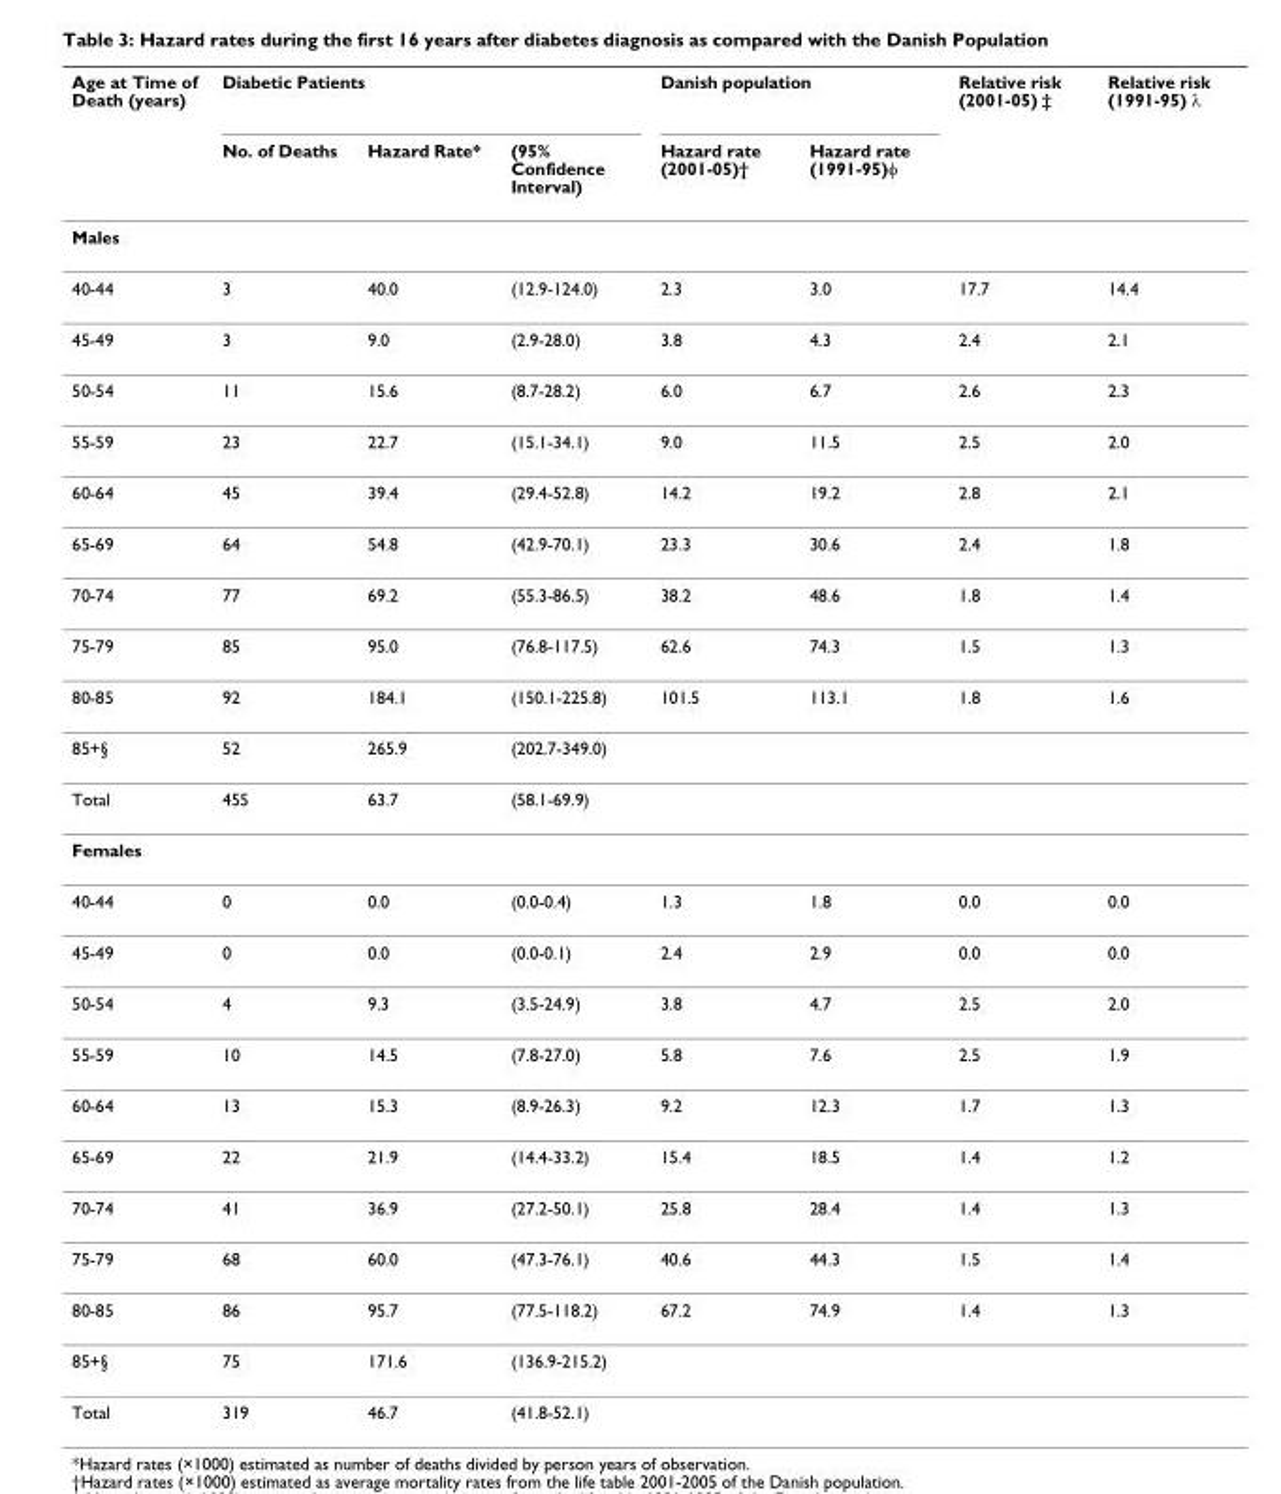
<table><thead><tr><td rowspan="2">Age at Time of Death (years)</td><td colspan="3">Diabetic Patients</td><td colspan="2">Danish population</td><td rowspan="2">Relative risk (2001-05) ‡</td><td rowspan="2">Relative risk (1991-95) λ</td></tr><tr><td>No. of Deaths</td><td>Hazard Rate*</td><td>(95% Confidence Interval)</td><td>Hazard rate (2001-05)†</td><td>Hazard rate (1991-95)φ</td></tr></thead><tbody><tr><td colspan="8">Males</td></tr><tr><td>40-44</td><td>3</td><td>40.0</td><td>(12.9-124.0)</td><td>2.3</td><td>3.0</td><td>17.7</td><td>14.4</td></tr><tr><td>45-49</td><td>3</td><td>9.0</td><td>(2.9-28.0)</td><td>3.8</td><td>4.3</td><td>2.4</td><td>2.1</td></tr><tr><td>50-54</td><td>11</td><td>15.6</td><td>(8.7-28.2)</td><td>6.0</td><td>6.7</td><td>2.6</td><td>2.3</td></tr><tr><td>55-59</td><td>23</td><td>22.7</td><td>(15.1-34.1)</td><td>9.0</td><td>11.5</td><td>2.5</td><td>2.0</td></tr><tr><td>60-64</td><td>45</td><td>39.4</td><td>(29.4-52.8)</td><td>14.2</td><td>19.2</td><td>2.8</td><td>2.1</td></tr><tr><td>65-69</td><td>64</td><td>54.8</td><td>(42.9-70.1)</td><td>23.3</td><td>30.6</td><td>2.4</td><td>1.8</td></tr><tr><td>70-74</td><td>77</td><td>69.2</td><td>(55.3-86.5)</td><td>38.2</td><td>48.6</td><td>1.8</td><td>1.4</td></tr><tr><td>75-79</td><td>85</td><td>95.0</td><td>(76.8-117.5)</td><td>62.6</td><td>74.3</td><td>1.5</td><td>1.3</td></tr><tr><td>80-85</td><td>92</td><td>184.1</td><td>(150.1-225.8)</td><td>101.5</td><td>113.1</td><td>1.8</td><td>1.6</td></tr><tr><td>85+§</td><td>52</td><td>265.9</td><td>(202.7-349.0)</td><td></td><td></td><td></td><td></td></tr><tr><td>Total</td><td>455</td><td>63.7</td><td>(58.1-69.9)</td><td></td><td></td><td></td><td></td></tr><tr><td colspan="8">Females</td></tr><tr><td>40-44</td><td>0</td><td>0.0</td><td>(0.0-0.4)</td><td>1.3</td><td>1.8</td><td>0.0</td><td>0.0</td></tr><tr><td>45-49</td><td>0</td><td>0.0</td><td>(0.0-0.1)</td><td>2.4</td><td>2.9</td><td>0.0</td><td>0.0</td></tr><tr><td>50-54</td><td>4</td><td>9.3</td><td>(3.5-24.9)</td><td>3.8</td><td>4.7</td><td>2.5</td><td>2.0</td></tr><tr><td>55-59</td><td>10</td><td>14.5</td><td>(7.8-27.0)</td><td>5.8</td><td>7.6</td><td>2.5</td><td>1.9</td></tr><tr><td>60-64</td><td>13</td><td>15.3</td><td>(8.9-26.3)</td><td>9.2</td><td>12.3</td><td>1.7</td><td>1.3</td></tr><tr><td>65-69</td><td>22</td><td>21.9</td><td>(14.4-33.2)</td><td>15.4</td><td>18.5</td><td>1.4</td><td>1.2</td></tr><tr><td>70-74</td><td>41</td><td>36.9</td><td>(27.2-50.1)</td><td>25.8</td><td>28.4</td><td>1.4</td><td>1.3</td></tr><tr><td>75-79</td><td>68</td><td>60.0</td><td>(47.3-76.1)</td><td>40.6</td><td>44.3</td><td>1.5</td><td>1.4</td></tr><tr><td>80-85</td><td>86</td><td>95.7</td><td>(77.5-118.2)</td><td>67.2</td><td>74.9</td><td>1.4</td><td>1.3</td></tr><tr><td>85+§</td><td>75</td><td>171.6</td><td>(136.9-215.2)</td><td></td><td></td><td></td><td></td></tr><tr><td>Total</td><td>319</td><td>46.7</td><td>(41.8-52.1)</td><td></td><td></td><td></td><td></td></tr></tbody></table>